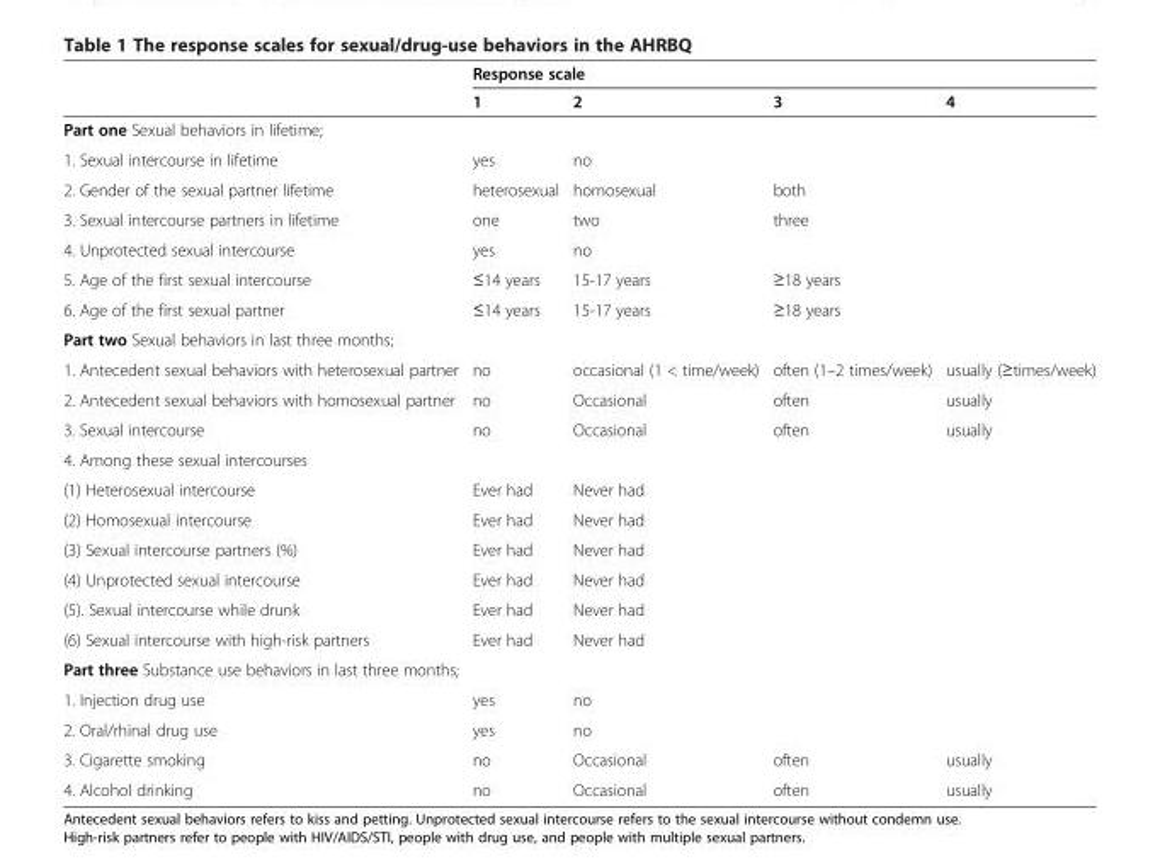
<table><thead><tr><td rowspan="2"></td><td colspan="4">Response scale</td></tr><tr><td>1</td><td>2</td><td>3</td><td>4</td></tr></thead><tbody><tr><td colspan="5">Part one Sexual behaviors in lifetime;</td></tr><tr><td>1. Sexual intercourse in lifetime</td><td>yes</td><td>no</td><td></td><td></td></tr><tr><td>2. Gender of the sexual partner lifetime</td><td>heterosexual</td><td>homosexual</td><td>both</td><td></td></tr><tr><td>3. Sexual intercourse partners in lifetime</td><td>one</td><td>two</td><td>three</td><td></td></tr><tr><td>4. Unprotected sexual intercourse</td><td>yes</td><td>no</td><td></td><td></td></tr><tr><td>5. Age of the first sexual intercourse</td><td>≤14 years</td><td>15-17 years</td><td>≥18 years</td><td></td></tr><tr><td>6. Age of the first sexual partner</td><td>≤14 years</td><td>15-17 years</td><td>≥18 years</td><td></td></tr><tr><td colspan="5">Part two Sexual behaviors in last three months;</td></tr><tr><td>1. Antecedent sexual behaviors with heterosexual partner</td><td>no</td><td>occasional (1 &lt; time/week)</td><td>often (1–2 times/week)</td><td>usually (≥times/week)</td></tr><tr><td>2. Antecedent sexual behaviors with homosexual partner</td><td>no</td><td>Occasional</td><td>often</td><td>usually</td></tr><tr><td>3. Sexual intercourse</td><td>no</td><td>Occasional</td><td>often</td><td>usually</td></tr><tr><td colspan="5">4. Among these sexual intercourses</td></tr><tr><td>(1) Heterosexual intercourse</td><td>Ever had</td><td>Never had</td><td></td><td></td></tr><tr><td>(2) Homosexual intercourse</td><td>Ever had</td><td>Never had</td><td></td><td></td></tr><tr><td>(3) Sexual intercourse partners (%)</td><td>Ever had</td><td>Never had</td><td></td><td></td></tr><tr><td>(4) Unprotected sexual intercourse</td><td>Ever had</td><td>Never had</td><td></td><td></td></tr><tr><td>(5). Sexual intercourse while drunk</td><td>Ever had</td><td>Never had</td><td></td><td></td></tr><tr><td>(6) Sexual intercourse with high-risk partners</td><td>Ever had</td><td>Never had</td><td></td><td></td></tr><tr><td colspan="5">Part three Substance use behaviors in last three months;</td></tr><tr><td>1. Injection drug use</td><td>yes</td><td>no</td><td></td><td></td></tr><tr><td>2. Oral/rhinal drug use</td><td>yes</td><td>no</td><td></td><td></td></tr><tr><td>3. Cigarette smoking</td><td>no</td><td>Occasional</td><td>often</td><td>usually</td></tr><tr><td>4. Alcohol drinking</td><td>no</td><td>Occasional</td><td>often</td><td>usually</td></tr></tbody></table>